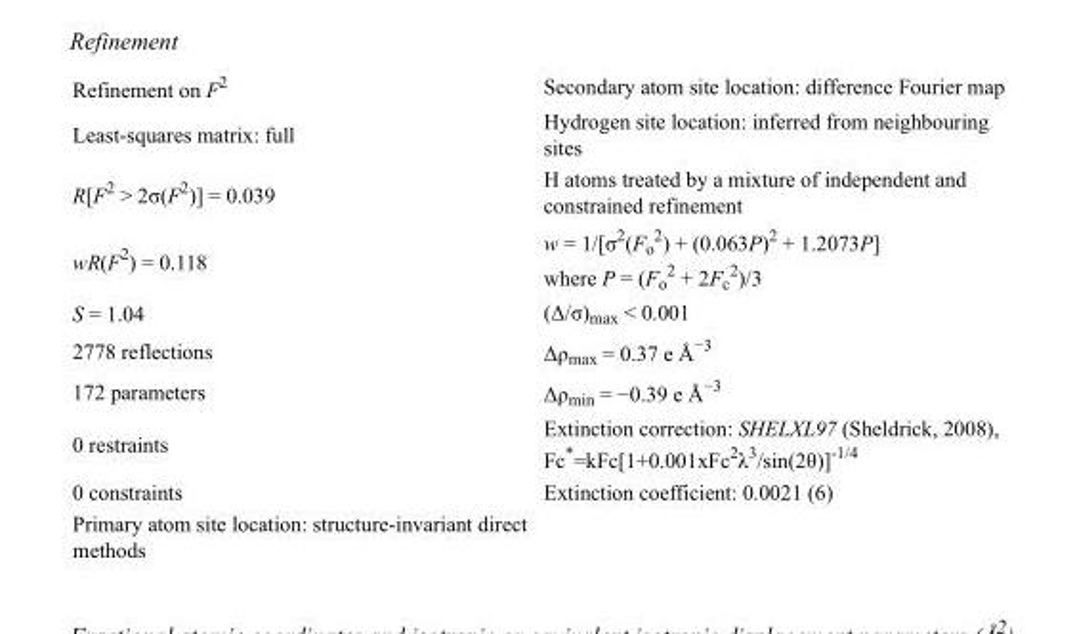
<table><tbody><tr><td>Refinement on F<sup>2</sup></td><td>Secondary atom site location: difference Fourier map</td></tr><tr><td>Least-squares matrix: full</td><td>Hydrogen site location: inferred from neighbouring sites</td></tr><tr><td>R[F<sup>2</sup> &gt; 2σ(F<sup>2</sup>)] = 0.039</td><td>H atoms treated by a mixture of independent and constrained refinement</td></tr><tr><td>wR(F<sup>2</sup>) = 0.118</td><td>w = 1/[σ<sup>2</sup>(F<sub>o</sub> <sup>2</sup>) + (0.063P)<sup>2</sup> + 1.2073P] where P = (F<sub>o</sub> <sup>2</sup> + 2F<sub>c</sub> <sup>2</sup>)/3</td></tr><tr><td>S = 1.04</td><td>(Δ/σ)<sub>max</sub> &lt; 0.001</td></tr><tr><td>2778 reflections</td><td>Δρ<sub>max</sub> = 0.37 e Å<sup>−3</sup></td></tr><tr><td>172 parameters</td><td>Δρ<sub>min</sub> = −0.39 e Å<sup>−3</sup></td></tr><tr><td>0 restraints</td><td>Extinction correction: SHELXL97 (Sheldrick, 2008), Fc*=kFc[1+0.001xFc<sup>2</sup>λ<sup>3</sup>/sin(2θ)]<sup>-1/4</sup></td></tr><tr><td>0 constraints</td><td>Extinction coefficient: 0.0021 (6)</td></tr><tr><td>Primary atom site location: structure-invariant direct methods</td><td></td></tr></tbody></table>